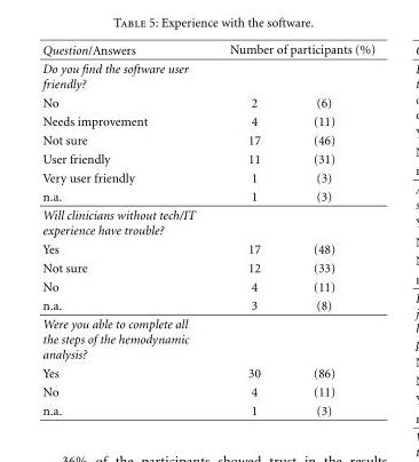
<table><thead><tr><td rowspan="3">Question/Answers Do you find the software user friendly? No</td><td rowspan="2" colspan="2">Number of participants (%)</td></tr><tr></tr><tr><td>2</td><td>(6)</td></tr></thead><tbody><tr><td>Needs improvement</td><td>4</td><td>(11)</td></tr><tr><td>Not sure</td><td>17</td><td>(46)</td></tr><tr><td>User friendly</td><td>11</td><td>(31)</td></tr><tr><td>Very user friendly</td><td>1</td><td>(3)</td></tr><tr><td>n.a.</td><td>1</td><td>(3)</td></tr><tr><td colspan="3">Will clinicians without tech/IT experience have trouble?</td></tr><tr><td>Yes</td><td>17</td><td>(48)</td></tr><tr><td>Not sure</td><td>12</td><td>(33)</td></tr><tr><td>No</td><td>4</td><td>(11)</td></tr><tr><td>n.a.</td><td>3</td><td>(8)</td></tr><tr><td colspan="3">Were you able to complete all the steps of the hemodynamic analysis?</td></tr><tr><td>Yes</td><td>30</td><td>(86)</td></tr><tr><td>No</td><td>4</td><td>(11)</td></tr><tr><td>n.a.</td><td>1</td><td>(3)</td></tr></tbody></table>